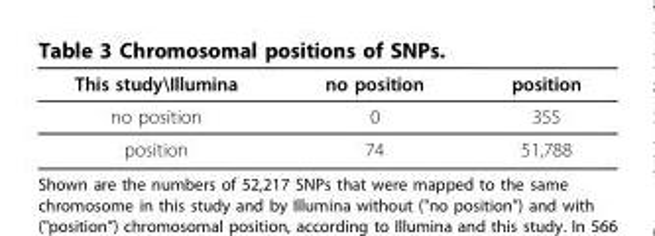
<table><thead><tr><td>This study\Illumina</td><td>no position</td><td>position</td></tr></thead><tbody><tr><td>no position</td><td>0</td><td>355</td></tr><tr><td>position</td><td>74</td><td>51,788</td></tr></tbody></table>